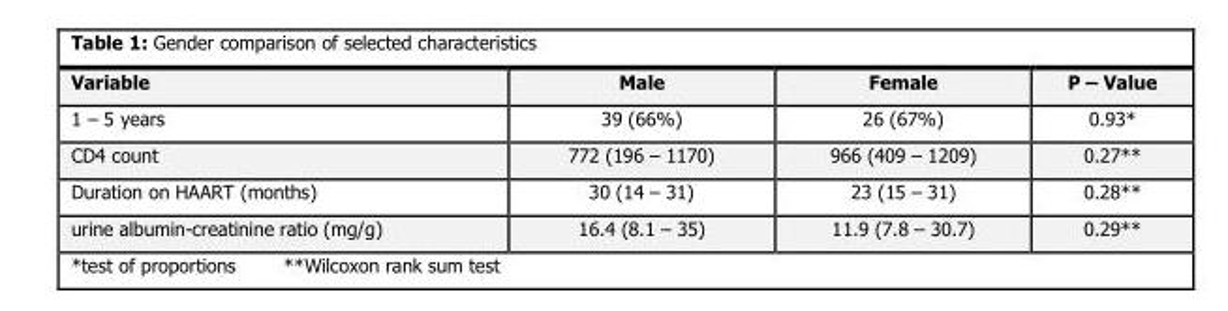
<table><thead><tr><td>Variable</td><td>Male</td><td>Female</td><td>P – Value</td></tr></thead><tbody><tr><td>1 – 5 years</td><td>39 (66%)</td><td>26 (67%)</td><td>0.93*</td></tr><tr><td>CD4 count</td><td>772 (196 – 1170)</td><td>966 (409 – 1209)</td><td>0.27**</td></tr><tr><td>Duration on HAART (months)</td><td>30 (14 – 31)</td><td>23 (15 – 31)</td><td>0.28**</td></tr><tr><td>urine albumin-creatinine ratio (mg/g)</td><td>16.4 (8.1 – 35)</td><td>11.9 (7.8 – 30.7)</td><td>0.29**</td></tr></tbody></table>